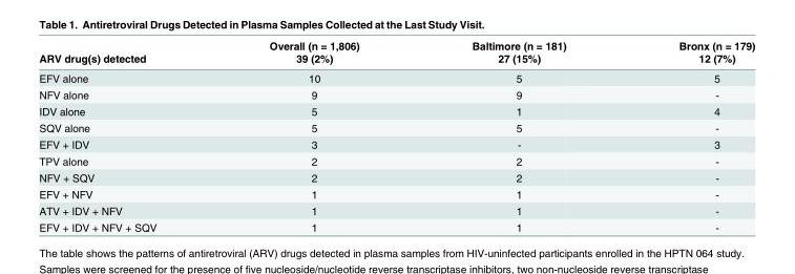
<table><thead><tr><td rowspan="2">ARV drug(s) detected</td><td rowspan="2">Overall (n = 1,806) 39 (2%)</td><td rowspan="2">Baltimore (n = 181) 27 (15%)</td><td rowspan="2">Bronx (n = 179) 12 (7%)</td></tr><tr></tr></thead><tbody><tr><td>EFV alone</td><td>10</td><td>5</td><td>5</td></tr><tr><td>NFV alone</td><td>9</td><td>9</td><td>-</td></tr><tr><td>IDV alone</td><td>5</td><td>1</td><td>4</td></tr><tr><td>SQV alone</td><td>5</td><td>5</td><td>-</td></tr><tr><td>EFV + IDV</td><td>3</td><td>-</td><td>3</td></tr><tr><td>TPV alone</td><td>2</td><td>2</td><td>-</td></tr><tr><td>NFV + SQV</td><td>2</td><td>2</td><td>-</td></tr><tr><td>EFV + NFV</td><td>1</td><td>1</td><td>-</td></tr><tr><td>ATV + IDV + NFV</td><td>1</td><td>1</td><td>-</td></tr><tr><td>EFV + IDV + NFV + SQV</td><td>1</td><td>1</td><td>-</td></tr></tbody></table>